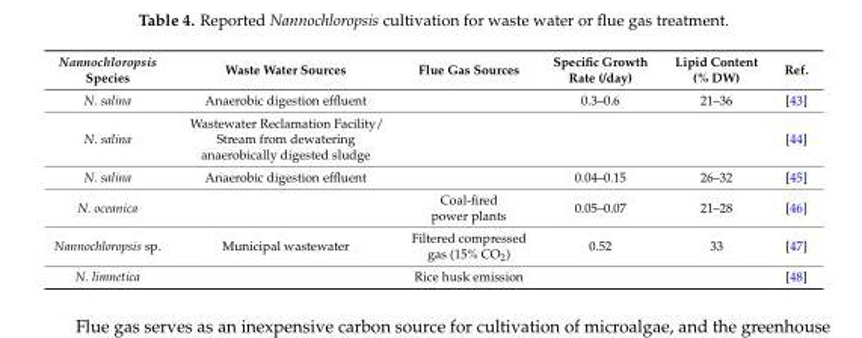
<table><thead><tr><td>Nannochloropsis Species</td><td>Waste Water Sources</td><td>Flue Gas Sources</td><td>Specific Growth Rate (/day)</td><td>Lipid Content (% DW)</td><td>Ref.</td></tr></thead><tbody><tr><td>N. salina</td><td>Anaerobic digestion effluent</td><td></td><td>0.3–0.6</td><td>21–36</td><td>[43]</td></tr><tr><td>N. salina</td><td>Wastewater Reclamation Facility/ Stream from dewatering anaerobically digested sludge</td><td></td><td></td><td></td><td>[44]</td></tr><tr><td>N. salina</td><td>Anaerobic digestion effluent</td><td></td><td>0.04–0.15</td><td>26–32</td><td>[45]</td></tr><tr><td>N. oceanica</td><td></td><td>Coal-fired power plants</td><td>0.05–0.07</td><td>21–28</td><td>[46]</td></tr><tr><td>Nannochloropsis sp.</td><td>Municipal wastewater</td><td>Filtered compressed gas (15% CO<sub>2</sub>)</td><td>0.52</td><td>33</td><td>[47]</td></tr><tr><td>N. limnetica</td><td></td><td>Rice husk emission</td><td></td><td></td><td>[48]</td></tr></tbody></table>